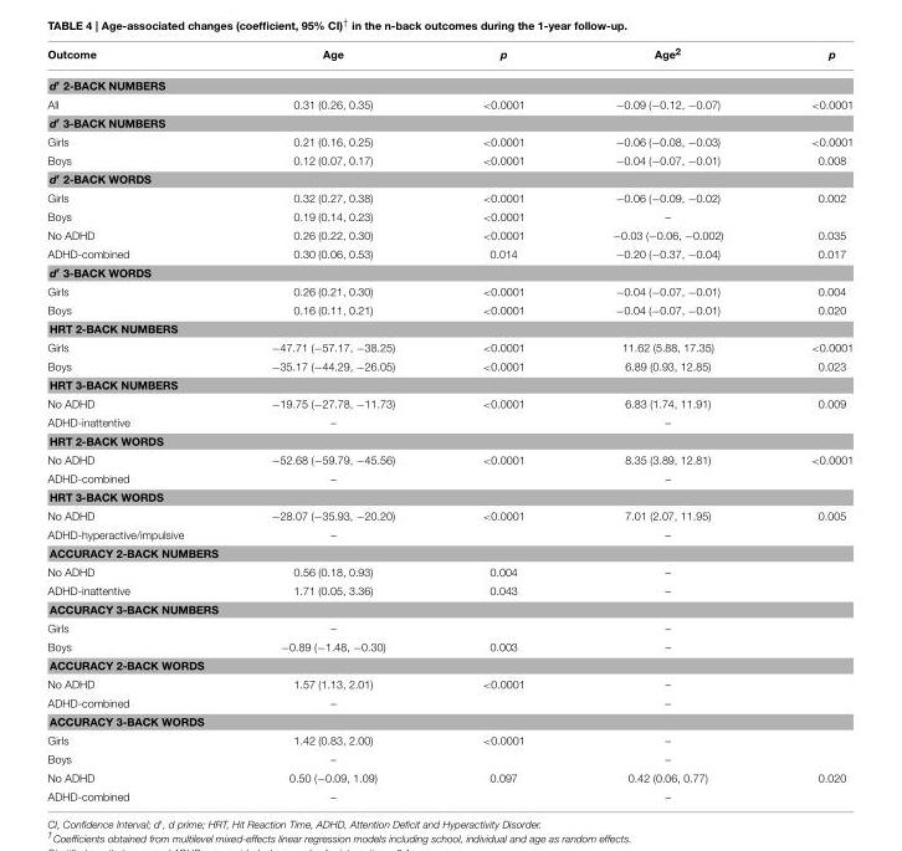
<table><thead><tr><td>Outcome</td><td>Age</td><td>p</td><td>Age<sup>2</sup></td><td>p</td></tr></thead><tbody><tr><td colspan="5">d′ 2-BACK NUMBERS</td></tr><tr><td>All</td><td>0.31 (0.26, 0.35)</td><td>&lt;0.0001</td><td>−0.09 (−0.12, −0.07)</td><td>&lt;0.0001</td></tr><tr><td colspan="5">d′ 3-BACK NUMBERS</td></tr><tr><td>Girls</td><td>0.21 (0.16, 0.25)</td><td>&lt;0.0001</td><td>−0.06 (−0.08, −0.03)</td><td>&lt;0.0001</td></tr><tr><td>Boys</td><td>0.12 (0.07, 0.17)</td><td>&lt;0.0001</td><td>−0.04 (−0.07, −0.01)</td><td>0.008</td></tr><tr><td colspan="5">d′ 2-BACK WORDS</td></tr><tr><td>Girls</td><td>0.32 (0.27, 0.38)</td><td>&lt;0.0001</td><td>−0.06 (−0.09, −0.02)</td><td>0.002</td></tr><tr><td>Boys</td><td>0.19 (0.14, 0.23)</td><td>&lt;0.0001</td><td>–</td><td></td></tr><tr><td>No ADHD</td><td>0.26 (0.22, 0.30)</td><td>&lt;0.0001</td><td>−0.03 (−0.06, −0.002)</td><td>0.035</td></tr><tr><td>ADHD-combined</td><td>0.30 (0.06, 0.53)</td><td>0.014</td><td>−0.20 (−0.37, −0.04)</td><td>0.017</td></tr><tr><td colspan="5">d′ 3-BACK WORDS</td></tr><tr><td>Girls</td><td>0.26 (0.21, 0.30)</td><td>&lt;0.0001</td><td>−0.04 (−0.07, −0.01)</td><td>0.004</td></tr><tr><td>Boys</td><td>0.16 (0.11, 0.21)</td><td>&lt;0.0001</td><td>−0.04 (−0.07, −0.01)</td><td>0.020</td></tr><tr><td colspan="5">HRT 2-BACK NUMBERS</td></tr><tr><td>Girls</td><td>−47.71 (−57.17, −38.25)</td><td>&lt;0.0001</td><td>11.62 (5.88, 17.35)</td><td>&lt;0.0001</td></tr><tr><td>Boys</td><td>−35.17 (−44.29, −26.05)</td><td>&lt;0.0001</td><td>6.89 (0.93, 12.85)</td><td>0.023</td></tr><tr><td colspan="5">HRT 3-BACK NUMBERS</td></tr><tr><td>No ADHD</td><td>−19.75 (−27.78, −11.73)</td><td>&lt;0.0001</td><td>6.83 (1.74, 11.91)</td><td>0.009</td></tr><tr><td>ADHD-inattentive</td><td>–</td><td></td><td>–</td><td></td></tr><tr><td colspan="5">HRT 2-BACK WORDS</td></tr><tr><td>No ADHD</td><td>−52.68 (−59.79, −45.56)</td><td>&lt;0.0001</td><td>8.35 (3.89, 12.81)</td><td>&lt;0.0001</td></tr><tr><td>ADHD-combined</td><td>–</td><td></td><td>–</td><td></td></tr><tr><td colspan="5">HRT 3-BACK WORDS</td></tr><tr><td>No ADHD</td><td>−28.07 (−35.93, −20.20)</td><td>&lt;0.0001</td><td>7.01 (2.07, 11.95)</td><td>0.005</td></tr><tr><td>ADHD-hyperactive/impulsive</td><td>–</td><td></td><td>–</td><td></td></tr><tr><td colspan="5">ACCURACY 2-BACK NUMBERS</td></tr><tr><td>No ADHD</td><td>0.56 (0.18, 0.93)</td><td>0.004</td><td>–</td><td></td></tr><tr><td>ADHD-inattentive</td><td>1.71 (0.05, 3.36)</td><td>0.043</td><td>–</td><td></td></tr><tr><td colspan="5">ACCURACY 3-BACK NUMBERS</td></tr><tr><td>Girls</td><td>–</td><td></td><td>–</td><td></td></tr><tr><td>Boys</td><td>−0.89 (−1.48, −0.30)</td><td>0.003</td><td>–</td><td></td></tr><tr><td colspan="5">ACCURACY 2-BACK WORDS</td></tr><tr><td>No ADHD</td><td>1.57 (1.13, 2.01)</td><td>&lt;0.0001</td><td>–</td><td></td></tr><tr><td>ADHD-combined</td><td>–</td><td></td><td>–</td><td></td></tr><tr><td colspan="5">ACCURACY 3-BACK WORDS</td></tr><tr><td>Girls</td><td>1.42 (0.83, 2.00)</td><td>&lt;0.0001</td><td>–</td><td></td></tr><tr><td>Boys</td><td>–</td><td></td><td>–</td><td></td></tr><tr><td>No ADHD</td><td>0.50 (−0.09, 1.09)</td><td>0.097</td><td>0.42 (0.06, 0.77)</td><td>0.020</td></tr><tr><td>ADHD-combined</td><td>–</td><td></td><td>–</td><td></td></tr></tbody></table>